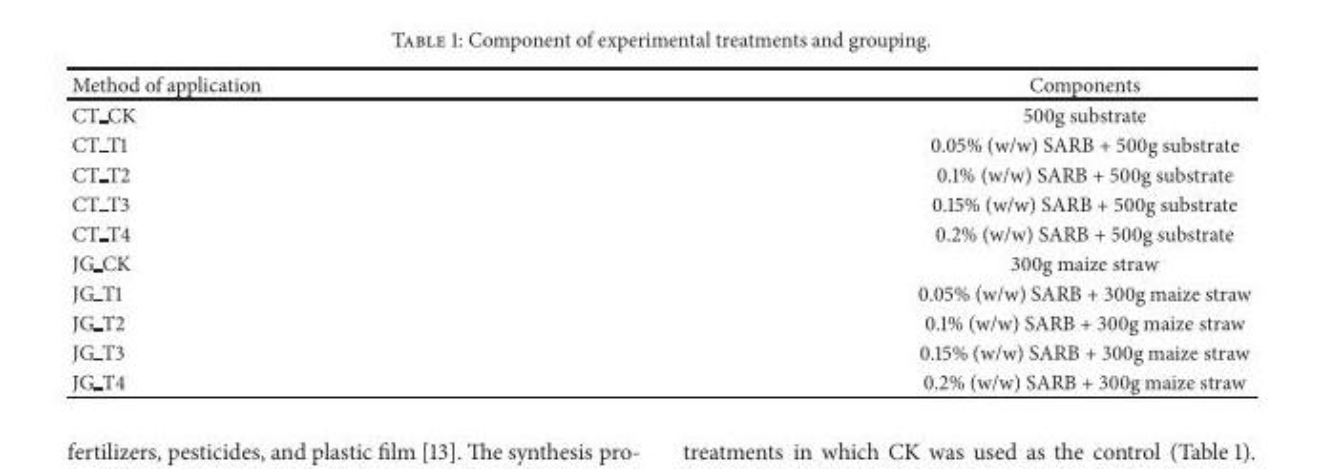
<table><thead><tr><td>Method of application</td><td>Components</td></tr></thead><tbody><tr><td>CT CK</td><td>500g substrate</td></tr><tr><td>CT T1</td><td>0.05% (w/w) SARB + 500g substrate</td></tr><tr><td>CT T2</td><td>0.1% (w/w) SARB + 500g substrate</td></tr><tr><td>CT T3</td><td>0.15% (w/w) SARB + 500g substrate</td></tr><tr><td>CT T4</td><td>0.2% (w/w) SARB + 500g substrate</td></tr><tr><td>JG CK</td><td>300g maize straw</td></tr><tr><td>JG T1</td><td>0.05% (w/w) SARB + 300g maize straw</td></tr><tr><td>JG T2</td><td>0.1% (w/w) SARB + 300g maize straw</td></tr><tr><td>JG T3</td><td>0.15% (w/w) SARB + 300g maize straw</td></tr><tr><td>JG T4</td><td>0.2% (w/w) SARB + 300g maize straw</td></tr></tbody></table>